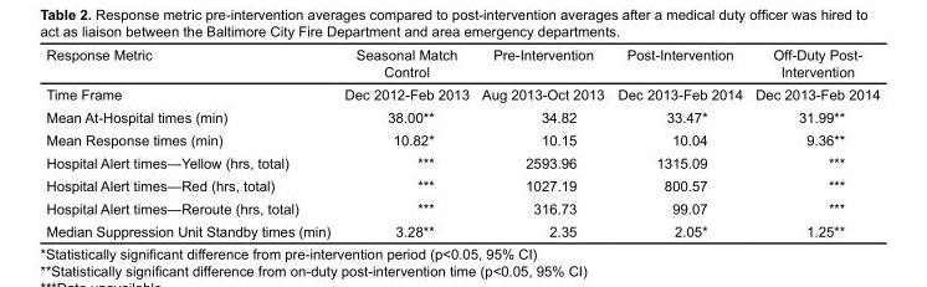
<table><thead><tr><td>Response Metric</td><td>Seasonal Match Control</td><td>Pre-Intervention</td><td>Post-Intervention</td><td>Off-Duty Post- Intervention</td></tr></thead><tbody><tr><td>Time Frame</td><td>Dec 2012-Feb 2013</td><td>Aug 2013-Oct 2013</td><td>Dec 2013-Feb 2014</td><td>Dec 2013-Feb 2014</td></tr><tr><td>Mean At-Hospital times (min)</td><td>38.00**</td><td>34.82</td><td>33.47*</td><td>31.99**</td></tr><tr><td>Mean Response times (min)</td><td>10.82*</td><td>10.15</td><td>10.04</td><td>9.36**</td></tr><tr><td>Hospital Alert times—Yellow (hrs, total)</td><td>***</td><td>2593.96</td><td>1315.09</td><td>***</td></tr><tr><td>Hospital Alert times—Red (hrs, total)</td><td>***</td><td>1027.19</td><td>800.57</td><td>***</td></tr><tr><td>Hospital Alert times—Reroute (hrs, total)</td><td>***</td><td>316.73</td><td>99.07</td><td>***</td></tr><tr><td>Median Suppression Unit Standby times (min)</td><td>3.28**</td><td>2.35</td><td>2.05*</td><td>1.25**</td></tr></tbody></table>